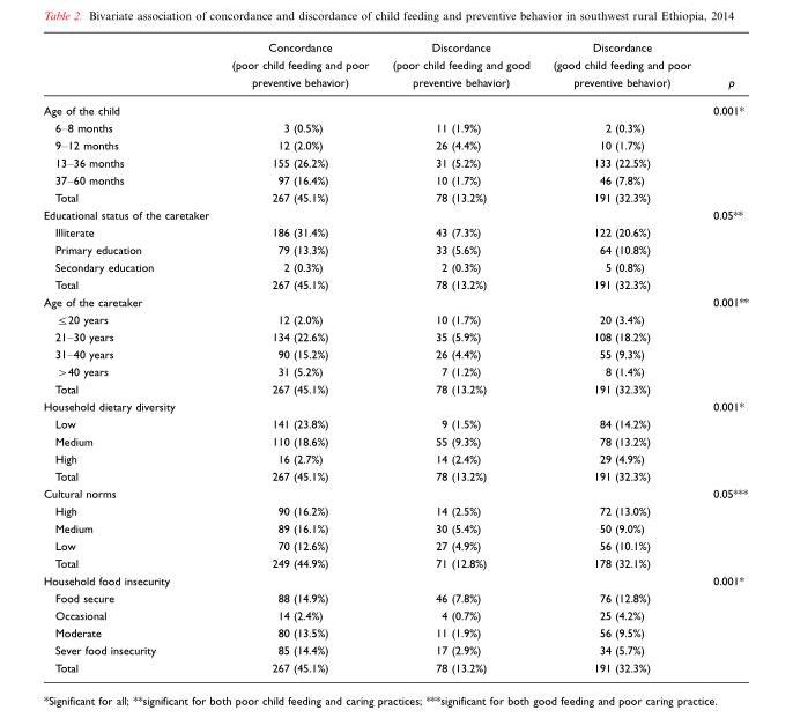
<table><thead><tr><td></td><td>Concordance (poor child feeding and poor preventive behavior)</td><td>Discordance (poor child feeding and good preventive behavior)</td><td>Discordance (good child feeding and poor preventive behavior)</td><td>p</td></tr></thead><tbody><tr><td>Age of the child</td><td></td><td></td><td></td><td>0.001*</td></tr><tr><td>6–8 months</td><td>3 (0.5%)</td><td>11 (1.9%)</td><td>2 (0.3%)</td><td></td></tr><tr><td>9–12 months</td><td>12 (2.0%)</td><td>26 (4.4%)</td><td>10 (1.7%)</td><td></td></tr><tr><td>13–36 months</td><td>155 (26.2%)</td><td>31 (5.2%)</td><td>133 (22.5%)</td><td></td></tr><tr><td>37–60 months</td><td>97 (16.4%)</td><td>10 (1.7%)</td><td>46 (7.8%)</td><td></td></tr><tr><td>Total</td><td>267 (45.1%)</td><td>78 (13.2%)</td><td>191 (32.3%)</td><td></td></tr><tr><td>Educational status of the caretaker</td><td></td><td></td><td></td><td>0.05**</td></tr><tr><td>Illiterate</td><td>186 (31.4%)</td><td>43 (7.3%)</td><td>122 (20.6%)</td><td></td></tr><tr><td>Primary education</td><td>79 (13.3%)</td><td>33 (5.6%)</td><td>64 (10.8%)</td><td></td></tr><tr><td>Secondary education</td><td>2 (0.3%)</td><td>2 (0.3%)</td><td>5 (0.8%)</td><td></td></tr><tr><td>Total</td><td>267 (45.1%)</td><td>78 (13.2%)</td><td>191 (32.3%)</td><td></td></tr><tr><td>Age of the caretaker</td><td></td><td></td><td></td><td>0.001**</td></tr><tr><td>≤20 years</td><td>12 (2.0%)</td><td>10 (1.7%)</td><td>20 (3.4%)</td><td></td></tr><tr><td>21–30 years</td><td>134 (22.6%)</td><td>35 (5.9%)</td><td>108 (18.2%)</td><td></td></tr><tr><td>31–40 years</td><td>90 (15.2%)</td><td>26 (4.4%)</td><td>55 (9.3%)</td><td></td></tr><tr><td>&gt;40 years</td><td>31 (5.2%)</td><td>7 (1.2%)</td><td>8 (1.4%)</td><td></td></tr><tr><td>Total</td><td>267 (45.1%)</td><td>78 (13.2%)</td><td>191 (32.3%)</td><td></td></tr><tr><td>Household dietary diversity</td><td></td><td></td><td></td><td>0.001*</td></tr><tr><td>Low</td><td>141 (23.8%)</td><td>9 (1.5%)</td><td>84 (14.2%)</td><td></td></tr><tr><td>Medium</td><td>110 (18.6%)</td><td>55 (9.3%)</td><td>78 (13.2%)</td><td></td></tr><tr><td>High</td><td>16 (2.7%)</td><td>14 (2.4%)</td><td>29 (4.9%)</td><td></td></tr><tr><td>Total</td><td>267 (45.1%)</td><td>78 (13.2%)</td><td>191 (32.3%)</td><td></td></tr><tr><td>Cultural norms</td><td></td><td></td><td></td><td>0.05***</td></tr><tr><td>High</td><td>90 (16.2%)</td><td>14 (2.5%)</td><td>72 (13.0%)</td><td></td></tr><tr><td>Medium</td><td>89 (16.1%)</td><td>30 (5.4%)</td><td>50 (9.0%)</td><td></td></tr><tr><td>Low</td><td>70 (12.6%)</td><td>27 (4.9%)</td><td>56 (10.1%)</td><td></td></tr><tr><td>Total</td><td>249 (44.9%)</td><td>71 (12.8%)</td><td>178 (32.1%)</td><td></td></tr><tr><td>Household food insecurity</td><td></td><td></td><td></td><td>0.001*</td></tr><tr><td>Food secure</td><td>88 (14.9%)</td><td>46 (7.8%)</td><td>76 (12.8%)</td><td></td></tr><tr><td>Occasional</td><td>14 (2.4%)</td><td>4 (0.7%)</td><td>25 (4.2%)</td><td></td></tr><tr><td>Moderate</td><td>80 (13.5%)</td><td>11 (1.9%)</td><td>56 (9.5%)</td><td></td></tr><tr><td>Sever food insecurity</td><td>85 (14.4%)</td><td>17 (2.9%)</td><td>34 (5.7%)</td><td></td></tr><tr><td>Total</td><td>267 (45.1%)</td><td>78 (13.2%)</td><td>191 (32.3%)</td><td></td></tr></tbody></table>